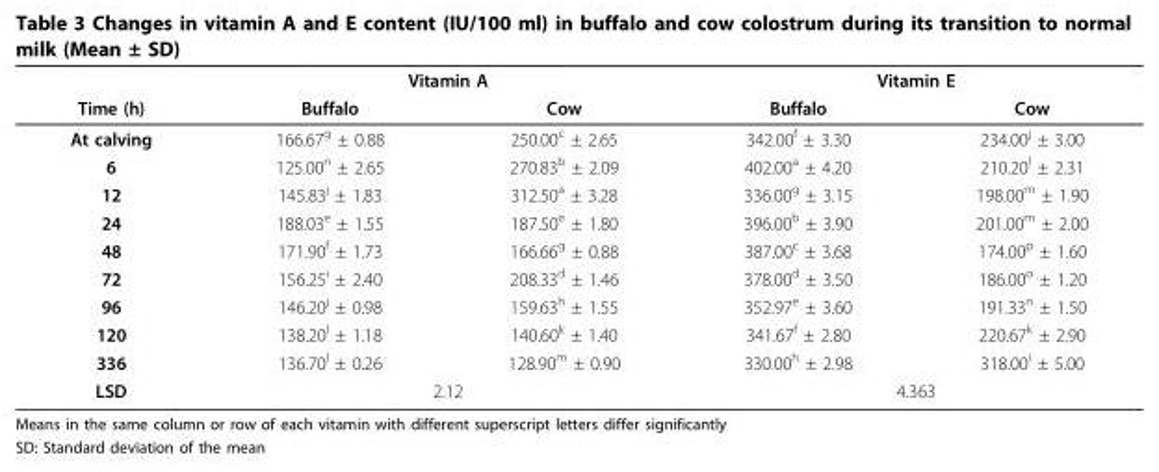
<table><thead><tr><td rowspan="2">Time (h)</td><td colspan="2">Vitamin A</td><td colspan="2">Vitamin E</td></tr><tr><td>Buffalo</td><td>Cow</td><td>Buffalo</td><td>Cow</td></tr></thead><tbody><tr><td>At calving</td><td>166.67<sup>g</sup> ± 0.88</td><td>250.00<sup>c</sup> ± 2.65</td><td>342.00<sup>f</sup> ± 3.30</td><td>234.00<sup>j</sup> ± 3.00</td></tr><tr><td>6</td><td>125.00<sup>n</sup> ± 2.65</td><td>270.83<sup>b</sup> ± 2.09</td><td>402.00<sup>a</sup> ± 4.20</td><td>210.20<sup>l</sup> ± 2.31</td></tr><tr><td>12</td><td>145.83<sup>j</sup> ± 1.83</td><td>312.50<sup>a</sup> ± 3.28</td><td>336.00<sup>g</sup> ± 3.15</td><td>198.00<sup>m</sup> ± 1.90</td></tr><tr><td>24</td><td>188.03<sup>e</sup> ± 1.55</td><td>187.50<sup>e</sup> ± 1.80</td><td>396.00<sup>b</sup> ± 3.90</td><td>201.00<sup>m</sup> ± 2.00</td></tr><tr><td>48</td><td>171.90<sup>f</sup> ± 1.73</td><td>166.66<sup>g</sup> ± 0.88</td><td>387.00<sup>c</sup> ± 3.68</td><td>174.00<sup>p</sup> ± 1.60</td></tr><tr><td>72</td><td>156.25<sup>i</sup> ± 2.40</td><td>208.33<sup>d</sup> ± 1.46</td><td>378.00<sup>d</sup> ± 3.50</td><td>186.00<sup>o</sup> ± 1.20</td></tr><tr><td>96</td><td>146.20<sup>j</sup> ± 0.98</td><td>159.63<sup>h</sup> ± 1.55</td><td>352.97<sup>e</sup> ± 3.60</td><td>191.33<sup>n</sup> ± 1.50</td></tr><tr><td>120</td><td>138.20<sup>l</sup> ± 1.18</td><td>140.60<sup>k</sup> ± 1.40</td><td>341.67<sup>f</sup> ± 2.80</td><td>220.67<sup>k</sup> ± 2.90</td></tr><tr><td>336</td><td>136.70<sup>l</sup> ± 0.26</td><td>128.90<sup>m</sup> ± 0.90</td><td>330.00<sup>h</sup> ± 2.98</td><td>318.00<sup>i</sup> ± 5.00</td></tr><tr><td>LSD</td><td colspan="2">2.12</td><td colspan="2">4.363</td></tr></tbody></table>